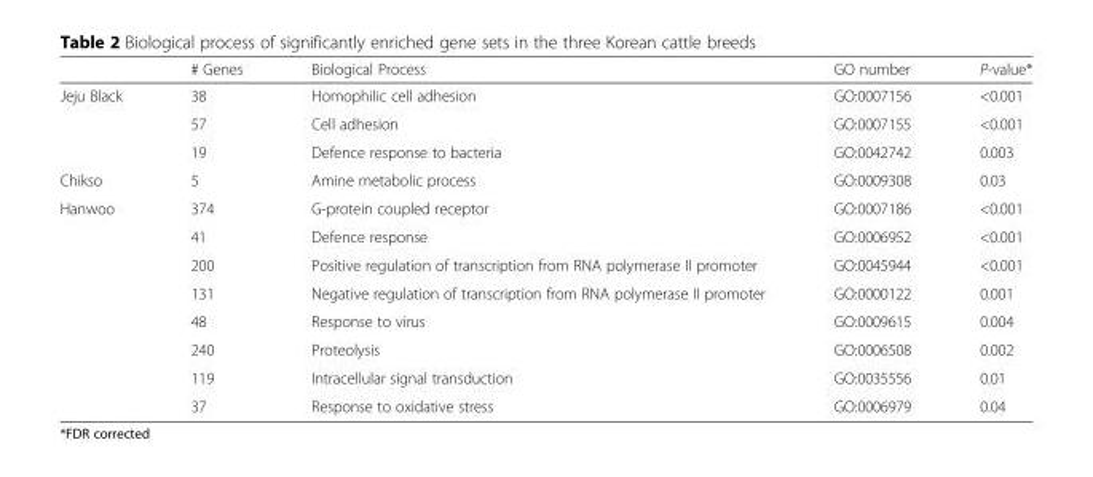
<table><thead><tr><td></td><td># Genes</td><td>Biological Process</td><td>GO number</td><td>P-value*</td></tr></thead><tbody><tr><td rowspan="3">Jeju Black</td><td>38</td><td>Homophilic cell adhesion</td><td>GO:0007156</td><td>&lt;0.001</td></tr><tr><td>57</td><td>Cell adhesion</td><td>GO:0007155</td><td>&lt;0.001</td></tr><tr><td>19</td><td>Defence response to bacteria</td><td>GO:0042742</td><td>0.003</td></tr><tr><td>Chikso</td><td>5</td><td>Amine metabolic process</td><td>GO:0009308</td><td>0.03</td></tr><tr><td rowspan="8">Hanwoo</td><td>374</td><td>G-protein coupled receptor</td><td>GO:0007186</td><td>&lt;0.001</td></tr><tr><td>41</td><td>Defence response</td><td>GO:0006952</td><td>&lt;0.001</td></tr><tr><td>200</td><td>Positive regulation of transcription from RNA polymerase II promoter</td><td>GO:0045944</td><td>&lt;0.001</td></tr><tr><td>131</td><td>Negative regulation of transcription from RNA polymerase II promoter</td><td>GO:0000122</td><td>0.001</td></tr><tr><td>48</td><td>Response to virus</td><td>GO:0009615</td><td>0.004</td></tr><tr><td>240</td><td>Proteolysis</td><td>GO:0006508</td><td>0.002</td></tr><tr><td>119</td><td>Intracellular signal transduction</td><td>GO:0035556</td><td>0.01</td></tr><tr><td>37</td><td>Response to oxidative stress</td><td>GO:0006979</td><td>0.04</td></tr></tbody></table>